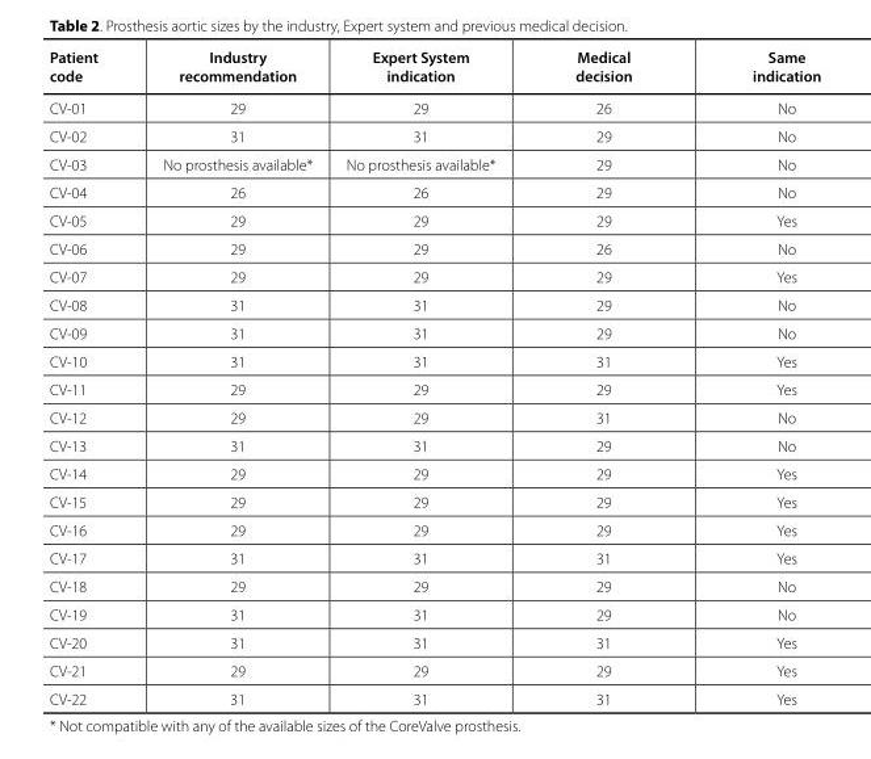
<table><thead><tr><td>Patient code</td><td>Industry recommendation</td><td>Expert System indication</td><td>Medical decision</td><td>Same indication</td></tr></thead><tbody><tr><td>CV-01</td><td>29</td><td>29</td><td>26</td><td>No</td></tr><tr><td>CV-02</td><td>31</td><td>31</td><td>29</td><td>No</td></tr><tr><td>CV-03</td><td>No prosthesis available*</td><td>No prosthesis available*</td><td>29</td><td>No</td></tr><tr><td>CV-04</td><td>26</td><td>26</td><td>29</td><td>No</td></tr><tr><td>CV-05</td><td>29</td><td>29</td><td>29</td><td>Yes</td></tr><tr><td>CV-06</td><td>29</td><td>29</td><td>26</td><td>No</td></tr><tr><td>CV-07</td><td>29</td><td>29</td><td>29</td><td>Yes</td></tr><tr><td>CV-08</td><td>31</td><td>31</td><td>29</td><td>No</td></tr><tr><td>CV-09</td><td>31</td><td>31</td><td>29</td><td>No</td></tr><tr><td>CV-10</td><td>31</td><td>31</td><td>31</td><td>Yes</td></tr><tr><td>CV-11</td><td>29</td><td>29</td><td>29</td><td>Yes</td></tr><tr><td>CV-12</td><td>29</td><td>29</td><td>31</td><td>No</td></tr><tr><td>CV-13</td><td>31</td><td>31</td><td>29</td><td>No</td></tr><tr><td>CV-14</td><td>29</td><td>29</td><td>29</td><td>Yes</td></tr><tr><td>CV-15</td><td>29</td><td>29</td><td>29</td><td>Yes</td></tr><tr><td>CV-16</td><td>29</td><td>29</td><td>29</td><td>Yes</td></tr><tr><td>CV-17</td><td>31</td><td>31</td><td>31</td><td>Yes</td></tr><tr><td>CV-18</td><td>29</td><td>29</td><td>29</td><td>No</td></tr><tr><td>CV-19</td><td>31</td><td>31</td><td>29</td><td>No</td></tr><tr><td>CV-20</td><td>31</td><td>31</td><td>31</td><td>Yes</td></tr><tr><td>CV-21</td><td>29</td><td>29</td><td>29</td><td>Yes</td></tr><tr><td>CV-22</td><td>31</td><td>31</td><td>31</td><td>Yes</td></tr></tbody></table>